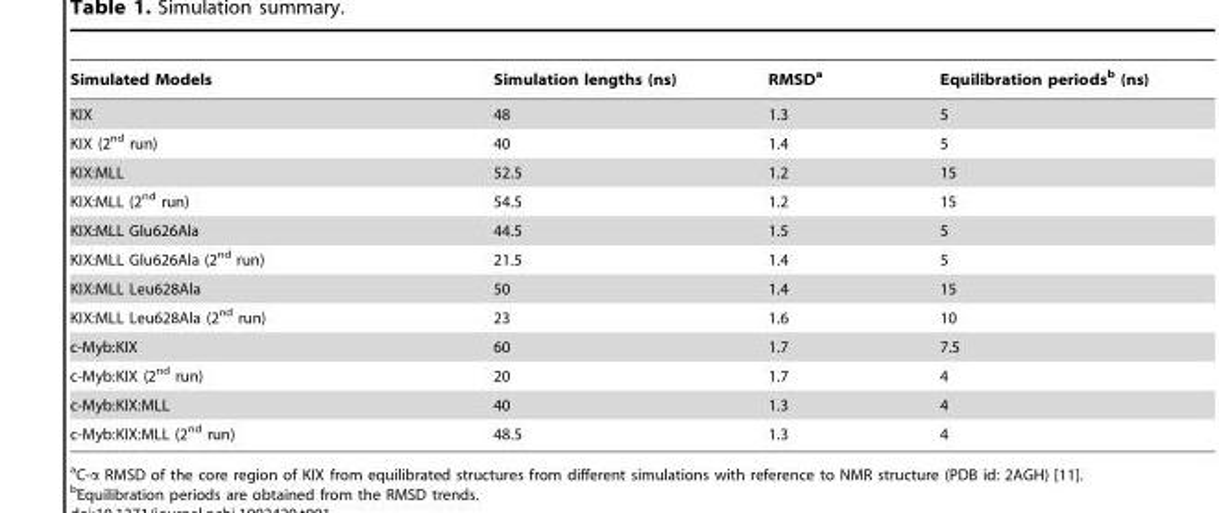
<table><thead><tr><td>Simulated Models</td><td>Simulation lengths (ns)</td><td>RMSD<sup>a</sup></td><td>Equilibration periods<sup>b</sup> (ns)</td></tr></thead><tbody><tr><td>KIX</td><td>48</td><td>1.3</td><td>5</td></tr><tr><td>KIX (2<sup>nd</sup> run)</td><td>40</td><td>1.4</td><td>5</td></tr><tr><td>KIX:MLL</td><td>52.5</td><td>1.2</td><td>15</td></tr><tr><td>KIX:MLL (2nd run)</td><td>54.5</td><td>1.2</td><td>15</td></tr><tr><td>KIX:MLL Glu626Ala</td><td>44.5</td><td>1.5</td><td>5</td></tr><tr><td>KIX:MLL Glu626Ala (2nd run)</td><td>21.5</td><td>1.4</td><td>5</td></tr><tr><td>KIX:MLL Leu628Ala</td><td>50</td><td>1.4</td><td>15</td></tr><tr><td>KIX:MLL Leu628Ala (2nd run)</td><td>23</td><td>1.6</td><td>10</td></tr><tr><td>c-Myb:KIX</td><td>60</td><td>1.7</td><td>7.5</td></tr><tr><td>c-Myb:KIX (2nd run)</td><td>20</td><td>1.7</td><td>4</td></tr><tr><td>c-Myb:KIX:MLL</td><td>40</td><td>1.3</td><td>4</td></tr><tr><td>c-Myb:KIX:MLL (2nd run)</td><td>48.5</td><td>1.3</td><td>4</td></tr></tbody></table>